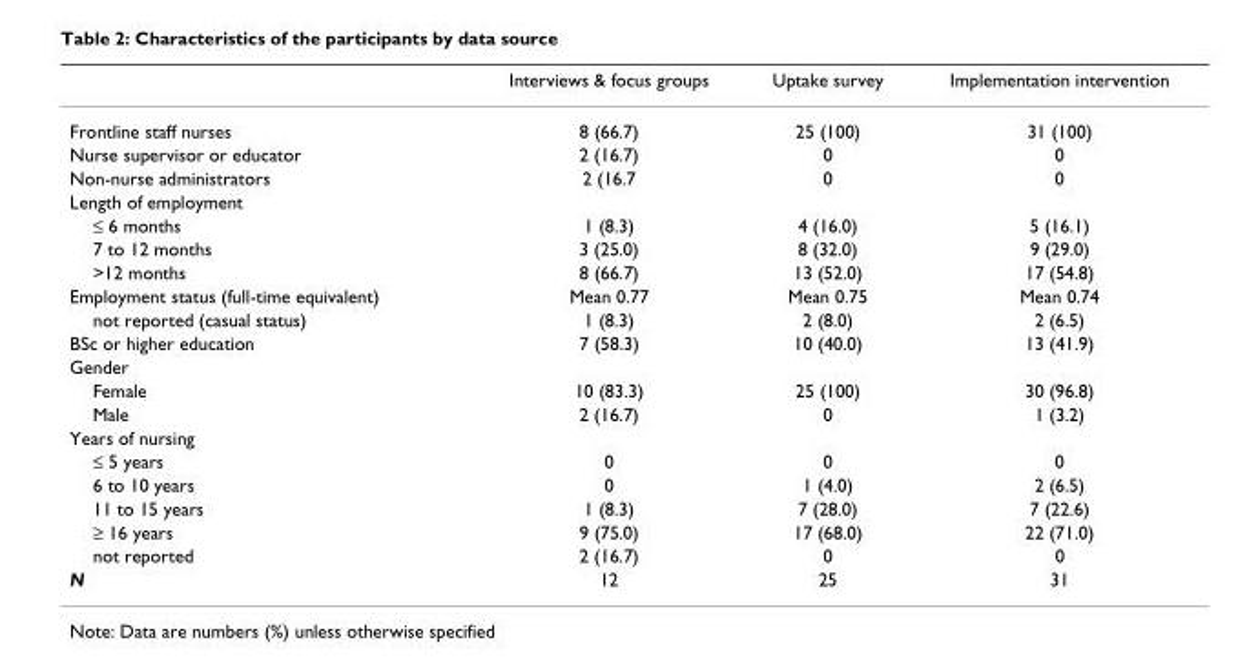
<table><thead><tr><td></td><td>Interviews &amp; focus groups</td><td>Uptake survey</td><td>Implementation intervention</td></tr></thead><tbody><tr><td>Frontline staff nurses</td><td>8 (66.7)</td><td>25 (100)</td><td>31 (100)</td></tr><tr><td>Nurse supervisor or educator</td><td>2 (16.7)</td><td>0</td><td>0</td></tr><tr><td>Non-nurse administrators</td><td>2 (16.7</td><td>0</td><td>0</td></tr><tr><td colspan="4">Length of employment</td></tr><tr><td>≤ 6 months</td><td>1 (8.3)</td><td>4 (16.0)</td><td>5 (16.1)</td></tr><tr><td>7 to 12 months</td><td>3 (25.0)</td><td>8 (32.0)</td><td>9 (29.0)</td></tr><tr><td>&gt;12 months</td><td>8 (66.7)</td><td>13 (52.0)</td><td>17 (54.8)</td></tr><tr><td>Employment status (full-time equivalent)</td><td>Mean 0.77</td><td>Mean 0.75</td><td>Mean 0.74</td></tr><tr><td>not reported (casual status)</td><td>1 (8.3)</td><td>2 (8.0)</td><td>2 (6.5)</td></tr><tr><td>BSc or higher education</td><td>7 (58.3)</td><td>10 (40.0)</td><td>13 (41.9)</td></tr><tr><td colspan="4">Gender</td></tr><tr><td>Female</td><td>10 (83.3)</td><td>25 (100)</td><td>30 (96.8)</td></tr><tr><td>Male</td><td>2 (16.7)</td><td>0</td><td>1 (3.2)</td></tr><tr><td colspan="4">Years of nursing</td></tr><tr><td>≤ 5 years</td><td>0</td><td>0</td><td>0</td></tr><tr><td>6 to 10 years</td><td>0</td><td>1 (4.0)</td><td>2 (6.5)</td></tr><tr><td>11 to 15 years</td><td>1 (8.3)</td><td>7 (28.0)</td><td>7 (22.6)</td></tr><tr><td>≥ 16 years</td><td>9 (75.0)</td><td>17 (68.0)</td><td>22 (71.0)</td></tr><tr><td>not reported</td><td>2 (16.7)</td><td>0</td><td>0</td></tr><tr><td>N</td><td>12</td><td>25</td><td>31</td></tr></tbody></table>